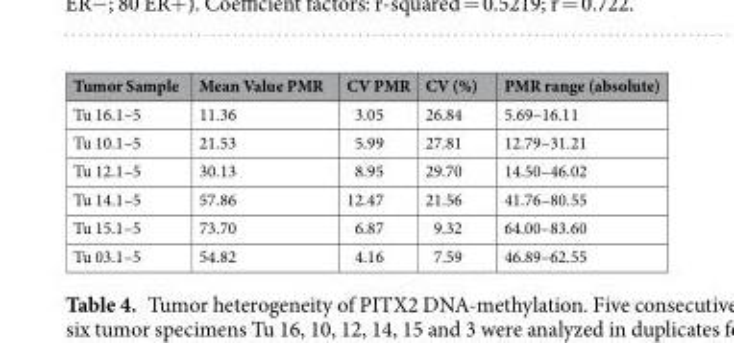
<table><thead><tr><td>Tumor Sample</td><td>Mean Value PMR</td><td>CV PMR</td><td>CV (%)</td><td>PMR range (absolute)</td></tr></thead><tbody><tr><td>Tu 16.1–5</td><td>11.36</td><td>3.05</td><td>26.84</td><td>5.69–16.11</td></tr><tr><td>Tu 10.1–5</td><td>21.53</td><td>5.99</td><td>27.81</td><td>12.79–31.21</td></tr><tr><td>Tu 12.1–5</td><td>30.13</td><td>8.95</td><td>29.70</td><td>14.50–46.02</td></tr><tr><td>Tu 14.1–5</td><td>57.86</td><td>12.47</td><td>21.56</td><td>41.76–80.55</td></tr><tr><td>Tu 15.1–5</td><td>73.70</td><td>6.87</td><td>9.32</td><td>64.00–83.60</td></tr><tr><td>Tu 03.1–5</td><td>54.82</td><td>4.16</td><td>7.59</td><td>46.89–62.55</td></tr></tbody></table>